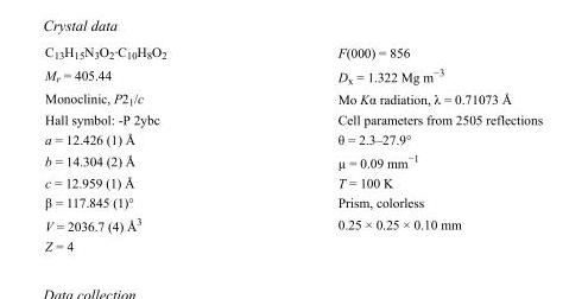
<table><tbody><tr><td>C<sub>13</sub>H<sub>15</sub>N<sub>3</sub>O<sub>2</sub>·C<sub>10</sub>H<sub>8</sub>O<sub>2</sub></td><td>F(000) = 856</td></tr><tr><td>M<sub>r</sub> = 405.44</td><td>D<sub>x</sub> = 1.322 Mg m<sup>−3</sup></td></tr><tr><td>Monoclinic, P2<sub>1</sub>/c</td><td>Mo Kα radiation, λ = 0.71073 Å</td></tr><tr><td>Hall symbol: -P 2ybc</td><td>Cell parameters from 2505 reflections</td></tr><tr><td>a = 12.426 (1) Å</td><td>θ = 2.3–27.9°</td></tr><tr><td>b = 14.304 (2) Å</td><td>µ = 0.09 mm<sup>−1</sup></td></tr><tr><td>c = 12.959 (1) Å</td><td>T = 100 K</td></tr><tr><td>β = 117.845 (1)°</td><td>Prism, colorless</td></tr><tr><td>V = 2036.7 (4) Å<sup>3</sup></td><td>0.25 × 0.25 × 0.10 mm</td></tr><tr><td>Z = 4</td><td></td></tr></tbody></table>